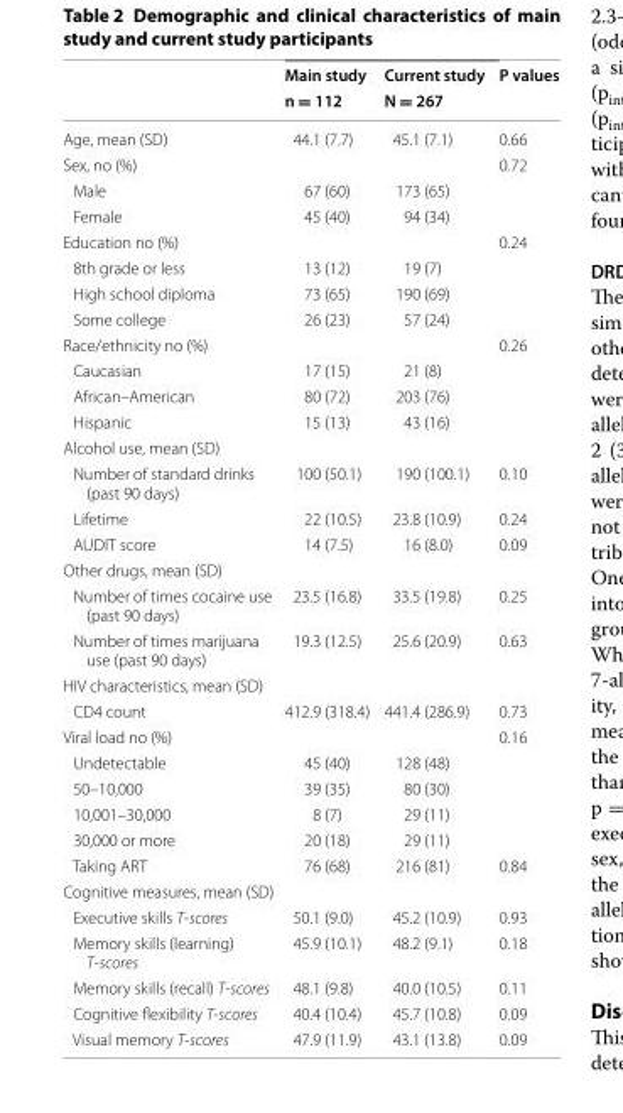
<table><thead><tr><td rowspan="2"></td><td rowspan="2">Main study n = 112</td><td rowspan="2">Current study N = 267</td><td rowspan="2">P values</td></tr><tr></tr></thead><tbody><tr><td>Age, mean (SD)</td><td>44.1 (7.7)</td><td>45.1 (7.1)</td><td>0.66</td></tr><tr><td>Sex, no (%)</td><td></td><td></td><td>0.72</td></tr><tr><td>Male</td><td>67 (60)</td><td>173 (65)</td><td></td></tr><tr><td>Female</td><td>45 (40)</td><td>94 (34)</td><td></td></tr><tr><td>Education no (%)</td><td></td><td></td><td>0.24</td></tr><tr><td>8th grade or less</td><td>13 (12)</td><td>19 (7)</td><td></td></tr><tr><td>High school diploma</td><td>73 (65)</td><td>190 (69)</td><td></td></tr><tr><td>Some college</td><td>26 (23)</td><td>57 (24)</td><td></td></tr><tr><td>Race/ethnicity no (%)</td><td></td><td></td><td>0.26</td></tr><tr><td>Caucasian</td><td>17 (15)</td><td>21 (8)</td><td></td></tr><tr><td>African–American</td><td>80 (72)</td><td>203 (76)</td><td></td></tr><tr><td>Hispanic</td><td>15 (13)</td><td>43 (16)</td><td></td></tr><tr><td colspan="4">Alcohol use, mean (SD)</td></tr><tr><td>Number of standard drinks (past 90 days)</td><td>100 (50.1)</td><td>190 (100.1)</td><td>0.10</td></tr><tr><td>Lifetime</td><td>22 (10.5)</td><td>23.8 (10.9)</td><td>0.24</td></tr><tr><td>AUDIT score</td><td>14 (7.5)</td><td>16 (8.0)</td><td>0.09</td></tr><tr><td colspan="4">Other drugs, mean (SD)</td></tr><tr><td>Number of times cocaine use (past 90 days)</td><td>23.5 (16.8)</td><td>33.5 (19.8)</td><td>0.25</td></tr><tr><td>Number of times marijuana use (past 90 days)</td><td>19.3 (12.5)</td><td>25.6 (20.9)</td><td>0.63</td></tr><tr><td colspan="4">HIV characteristics, mean (SD)</td></tr><tr><td>CD4 count</td><td>412.9 (318.4)</td><td>441.4 (286.9)</td><td>0.73</td></tr><tr><td>Viral load no (%)</td><td></td><td></td><td>0.16</td></tr><tr><td>Undetectable</td><td>45 (40)</td><td>128 (48)</td><td></td></tr><tr><td>50–10,000</td><td>39 (35)</td><td>80 (30)</td><td></td></tr><tr><td>10,001–30,000</td><td>8 (7)</td><td>29 (11)</td><td></td></tr><tr><td>30,000 or more</td><td>20 (18)</td><td>29 (11)</td><td></td></tr><tr><td>Taking ART</td><td>76 (68)</td><td>216 (81)</td><td>0.84</td></tr><tr><td colspan="4">Cognitive measures, mean (SD)</td></tr><tr><td>Executive skills T-scores</td><td>50.1 (9.0)</td><td>45.2 (10.9)</td><td>0.93</td></tr><tr><td>Memory skills (learning) T-scores</td><td>45.9 (10.1)</td><td>48.2 (9.1)</td><td>0.18</td></tr><tr><td>Memory skills (recall) T-scores</td><td>48.1 (9.8)</td><td>40.0 (10.5)</td><td>0.11</td></tr><tr><td>Cognitive flexibility T-scores</td><td>40.4 (10.4)</td><td>45.7 (10.8)</td><td>0.09</td></tr><tr><td>Visual memory T-scores</td><td>47.9 (11.9)</td><td>43.1 (13.8)</td><td>0.09</td></tr></tbody></table>